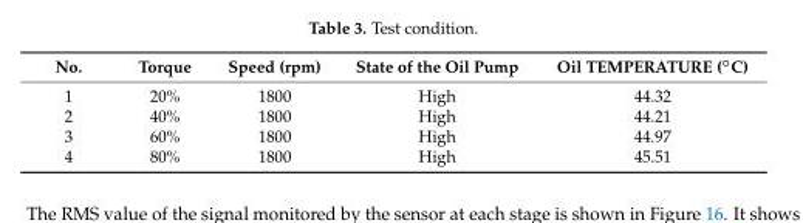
<table><thead><tr><td>No.</td><td>Torque</td><td>Speed (rpm)</td><td>State of the Oil Pump</td><td>Oil TEMPERATURE (◦C)</td></tr></thead><tbody><tr><td>1</td><td>20%</td><td>1800</td><td>High</td><td>44.32</td></tr><tr><td>2</td><td>40%</td><td>1800</td><td>High</td><td>44.21</td></tr><tr><td>3</td><td>60%</td><td>1800</td><td>High</td><td>44.97</td></tr><tr><td>4</td><td>80%</td><td>1800</td><td>High</td><td>45.51</td></tr></tbody></table>